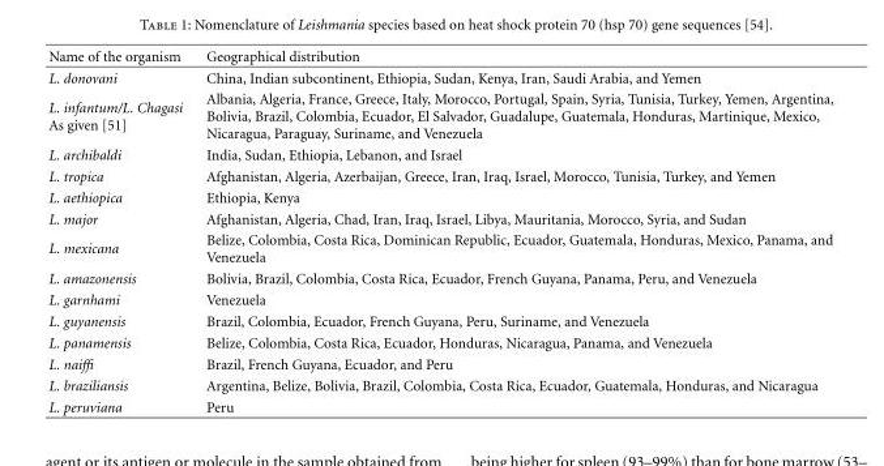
<table><thead><tr><td>Name of the organism</td><td>Geographical distribution</td></tr></thead><tbody><tr><td>L. donovani</td><td>China, Indian subcontinent, Ethiopia, Sudan, Kenya, Iran, Saudi Arabia, and Yemen</td></tr><tr><td>L. infantum/L. Chagasi As given [51]</td><td>Albania, Algeria, France, Greece, Italy, Morocco, Portugal, Spain, Syria, Tunisia, Turkey, Yemen, Argentina, Bolivia, Brazil, Colombia, Ecuador, El Salvador, Guadalupe, Guatemala, Honduras, Martinique, Mexico, Nicaragua, Paraguay, Suriname, and Venezuela</td></tr><tr><td>L. archibaldi</td><td>India, Sudan, Ethiopia, Lebanon, and Israel</td></tr><tr><td>L. tropica</td><td>Afghanistan, Algeria, Azerbaijan, Greece, Iran, Iraq, Israel, Morocco, Tunisia, Turkey, and Yemen</td></tr><tr><td>L. aethiopica</td><td>Ethiopia, Kenya</td></tr><tr><td>L. major</td><td>Afghanistan, Algeria, Chad, Iran, Iraq, Israel, Libya, Mauritania, Morocco, Syria, and Sudan</td></tr><tr><td>L. mexicana</td><td>Belize, Colombia, Costa Rica, Dominican Republic, Ecuador, Guatemala, Honduras, Mexico, Panama, and Venezuela</td></tr><tr><td>L. amazonensis</td><td>Bolivia, Brazil, Colombia, Costa Rica, Ecuador, French Guyana, Panama, Peru, and Venezuela</td></tr><tr><td>L. garnhami</td><td>Venezuela</td></tr><tr><td>L. guyanensis</td><td>Brazil, Colombia, Ecuador, French Guyana, Peru, Suriname, and Venezuela</td></tr><tr><td>L. panamensis</td><td>Belize, Colombia, Costa Rica, Ecuador, Honduras, Nicaragua, Panama, and Venezuela</td></tr><tr><td>L. naiffi</td><td>Brazil, French Guyana, Ecuador, and Peru</td></tr><tr><td>L. braziliansis</td><td>Argentina, Belize, Bolivia, Brazil, Colombia, Costa Rica, Ecuador, Guatemala, Honduras, and Nicaragua</td></tr><tr><td>L. peruviana</td><td>Peru</td></tr></tbody></table>